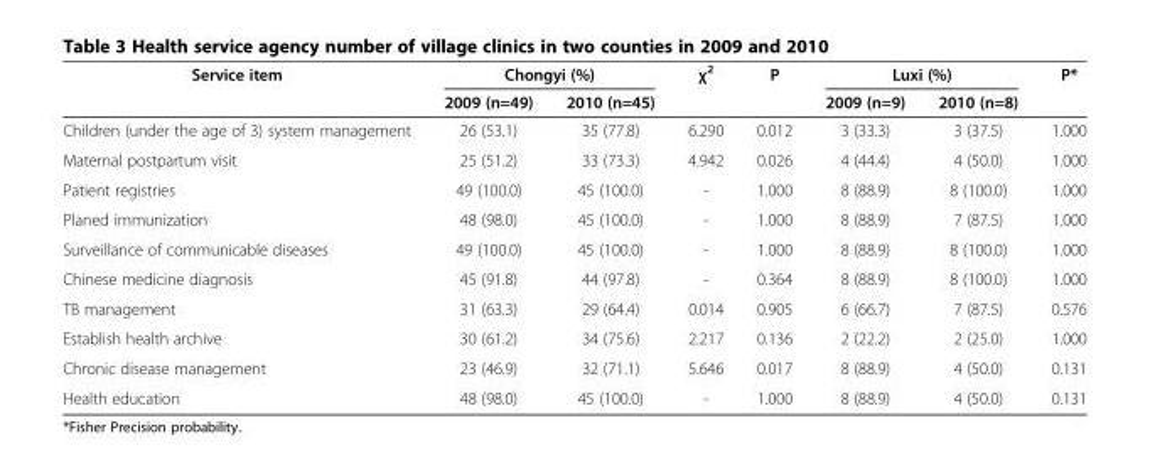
<table><thead><tr><td rowspan="2">Service item</td><td colspan="2">Chongyi (%)</td><td rowspan="2">χ<sup>2</sup></td><td rowspan="2">P</td><td colspan="2">Luxi (%)</td><td rowspan="2">P*</td></tr><tr><td>2009 (n=49)</td><td>2010 (n=45)</td><td>2009 (n=9)</td><td>2010 (n=8)</td></tr></thead><tbody><tr><td>Children (under the age of 3) system management</td><td>26 (53.1)</td><td>35 (77.8)</td><td>6.290</td><td>0.012</td><td>3 (33.3)</td><td>3 (37.5)</td><td>1.000</td></tr><tr><td>Maternal postpartum visit</td><td>25 (51.2)</td><td>33 (73.3)</td><td>4.942</td><td>0.026</td><td>4 (44.4)</td><td>4 (50.0)</td><td>1.000</td></tr><tr><td>Patient registries</td><td>49 (100.0)</td><td>45 (100.0)</td><td>-</td><td>1.000</td><td>8 (88.9)</td><td>8 (100.0)</td><td>1.000</td></tr><tr><td>Planed immunization</td><td>48 (98.0)</td><td>45 (100.0)</td><td>-</td><td>1.000</td><td>8 (88.9)</td><td>7 (87.5)</td><td>1.000</td></tr><tr><td>Surveillance of communicable diseases</td><td>49 (100.0)</td><td>45 (100.0)</td><td>-</td><td>1.000</td><td>8 (88.9)</td><td>8 (100.0)</td><td>1.000</td></tr><tr><td>Chinese medicine diagnosis</td><td>45 (91.8)</td><td>44 (97.8)</td><td>-</td><td>0.364</td><td>8 (88.9)</td><td>8 (100.0)</td><td>1.000</td></tr><tr><td>TB management</td><td>31 (63.3)</td><td>29 (64.4)</td><td>0.014</td><td>0.905</td><td>6 (66.7)</td><td>7 (87.5)</td><td>0.576</td></tr><tr><td>Establish health archive</td><td>30 (61.2)</td><td>34 (75.6)</td><td>2.217</td><td>0.136</td><td>2 (22.2)</td><td>2 (25.0)</td><td>1.000</td></tr><tr><td>Chronic disease management</td><td>23 (46.9)</td><td>32 (71.1)</td><td>5.646</td><td>0.017</td><td>8 (88.9)</td><td>4 (50.0)</td><td>0.131</td></tr><tr><td>Health education</td><td>48 (98.0)</td><td>45 (100.0)</td><td>-</td><td>1.000</td><td>8 (88.9)</td><td>4 (50.0)</td><td>0.131</td></tr></tbody></table>